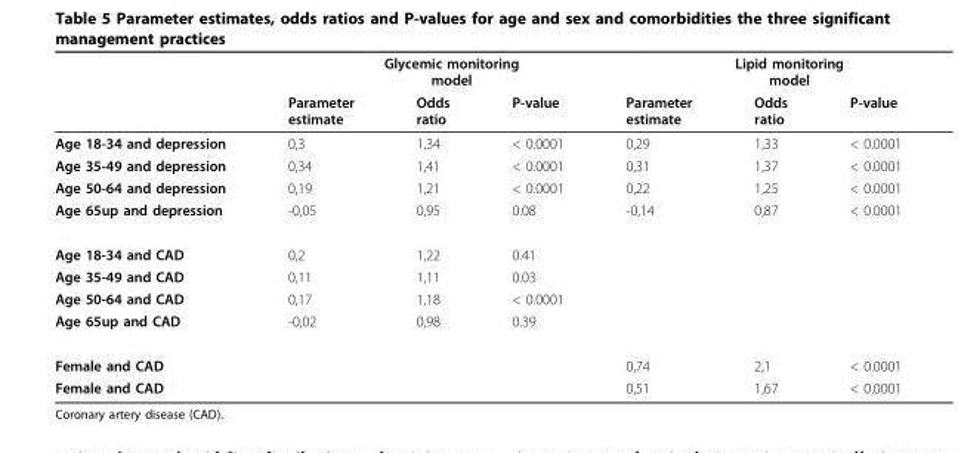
<table><thead><tr><td rowspan="2"></td><td colspan="3">Glycemic monitoring model</td><td colspan="3">Lipid monitoring model</td></tr><tr><td>Parameter estimate</td><td>Odds ratio</td><td>P-value</td><td>Parameter estimate</td><td>Odds ratio</td><td>P-value</td></tr></thead><tbody><tr><td>Age 18-34 and depression</td><td>0,3</td><td>1,34</td><td>&lt; 0.0001</td><td>0,29</td><td>1,33</td><td>&lt; 0.0001</td></tr><tr><td>Age 35-49 and depression</td><td>0,34</td><td>1,41</td><td>&lt; 0.0001</td><td>0,31</td><td>1,37</td><td>&lt; 0.0001</td></tr><tr><td>Age 50-64 and depression</td><td>0,19</td><td>1,21</td><td>&lt; 0.0001</td><td>0,22</td><td>1,25</td><td>&lt; 0.0001</td></tr><tr><td>Age 65up and depression</td><td>-0,05</td><td>0,95</td><td>0.08</td><td>-0,14</td><td>0,87</td><td>&lt; 0.0001</td></tr><tr><td>Age 18-34 and CAD</td><td>0,2</td><td>1,22</td><td>0.41</td><td></td><td></td><td></td></tr><tr><td>Age 35-49 and CAD</td><td>0,11</td><td>1,11</td><td>0.03</td><td></td><td></td><td></td></tr><tr><td>Age 50-64 and CAD</td><td>0,17</td><td>1,18</td><td>&lt; 0.0001</td><td></td><td></td><td></td></tr><tr><td>Age 65up and CAD</td><td>-0,02</td><td>0,98</td><td>0.39</td><td></td><td></td><td></td></tr><tr><td>Female and CAD</td><td></td><td></td><td></td><td>0,74</td><td>2,1</td><td>&lt; 0.0001</td></tr><tr><td>Female and CAD</td><td></td><td></td><td></td><td>0,51</td><td>1,67</td><td>&lt; 0.0001</td></tr></tbody></table>